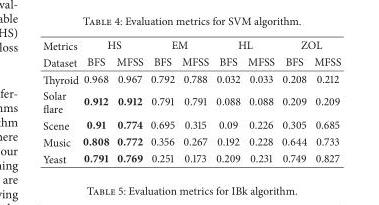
<table><thead><tr><td rowspan="2">Metrics Dataset</td><td colspan="2">HS</td><td colspan="2">EM</td><td colspan="2">HL</td><td colspan="2">ZOL</td></tr><tr><td>BFS</td><td>MFSS</td><td>BFS</td><td>MFSS</td><td>BFS</td><td>MFSS</td><td>BFS</td><td>MFSS</td></tr></thead><tbody><tr><td>Thyroid</td><td>0.968</td><td>0.967</td><td>0.792</td><td>0.788</td><td>0.032</td><td>0.033</td><td>0.208</td><td>0.212</td></tr><tr><td>Solar flare</td><td>0.912</td><td>0.912</td><td>0.791</td><td>0.791</td><td>0.088</td><td>0.088</td><td>0.209</td><td>0.209</td></tr><tr><td>Scene</td><td>0.91</td><td>0.774</td><td>0.695</td><td>0.315</td><td>0.09</td><td>0.226</td><td>0.305</td><td>0.685</td></tr><tr><td>Music</td><td>0.808</td><td>0.772</td><td>0.356</td><td>0.267</td><td>0.192</td><td>0.228</td><td>0.644</td><td>0.733</td></tr><tr><td>Yeast</td><td>0.791</td><td>0.769</td><td>0.251</td><td>0.173</td><td>0.209</td><td>0.231</td><td>0.749</td><td>0.827</td></tr></tbody></table>